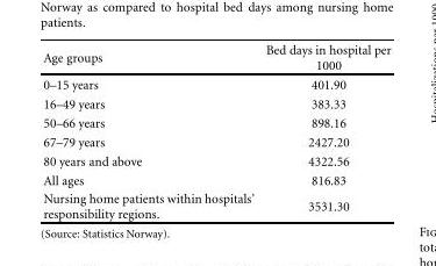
<table><thead><tr><td>Age groups</td><td>Bed days in hospital per 1000</td></tr></thead><tbody><tr><td>0–15 years</td><td>401.90</td></tr><tr><td>16–49 years</td><td>383.33</td></tr><tr><td>50–66 years</td><td>898.16</td></tr><tr><td>67–79 years</td><td>2427.20</td></tr><tr><td>80 years and above</td><td>4322.56</td></tr><tr><td>All ages</td><td>816.83</td></tr><tr><td>Nursing home patients within hospitals’ responsibility regions.</td><td>3531.30</td></tr></tbody></table>